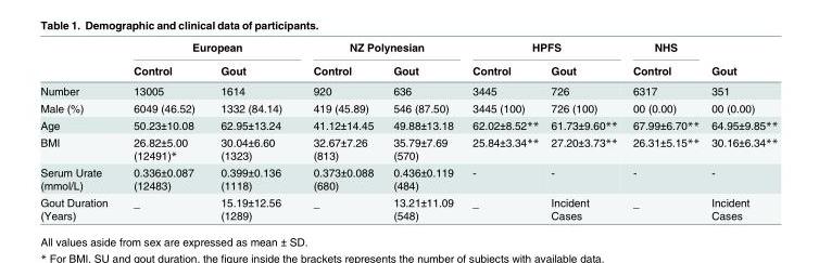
<table><thead><tr><td rowspan="2"></td><td colspan="2">European</td><td colspan="2">NZ Polynesian</td><td colspan="2">HPFS</td><td rowspan="2">NHS Control</td><td rowspan="2">Gout</td></tr><tr><td>Control</td><td>Gout</td><td>Control</td><td>Gout</td><td>Control</td><td>Gout</td></tr></thead><tbody><tr><td>Number</td><td>13005</td><td>1614</td><td>920</td><td>636</td><td>3445</td><td>726</td><td>6317</td><td>351</td></tr><tr><td>Male (%)</td><td>6049 (46.52)</td><td>1332 (84.14)</td><td>419 (45.89)</td><td>546 (87.50)</td><td>3445 (100)</td><td>726 (100)</td><td>00 (0.00)</td><td>00 (0.00)</td></tr><tr><td>Age</td><td>50.23±10.08</td><td>62.95±13.24</td><td>41.12±14.45</td><td>49.88±13.18</td><td>62.02±8.52**</td><td>61.73±9.60**</td><td>67.99±6.70**</td><td>64.95±9.85**</td></tr><tr><td>BMI</td><td>26.82±5.00 (12491)*</td><td>30.04±6.60 (1323)</td><td>32.67±7.26 (813)</td><td>35.79±7.69 (570)</td><td>25.84±3.34**</td><td>27.20±3.73**</td><td>26.31±5.15**</td><td>30.16±6.34**</td></tr><tr><td>Serum Urate (mmol/L)</td><td>0.336±0.087 (12483)</td><td>0.399±0.136 (1118)</td><td>0.373±0.088 (680)</td><td>0.436±0.119 (484)</td><td>-</td><td>-</td><td>-</td><td>-</td></tr><tr><td>Gout Duration (Years)</td><td>_</td><td>15.19±12.56 (1289)</td><td>_</td><td>13.21±11.09 (548)</td><td>_</td><td>Incident Cases</td><td>_</td><td>Incident Cases</td></tr></tbody></table>